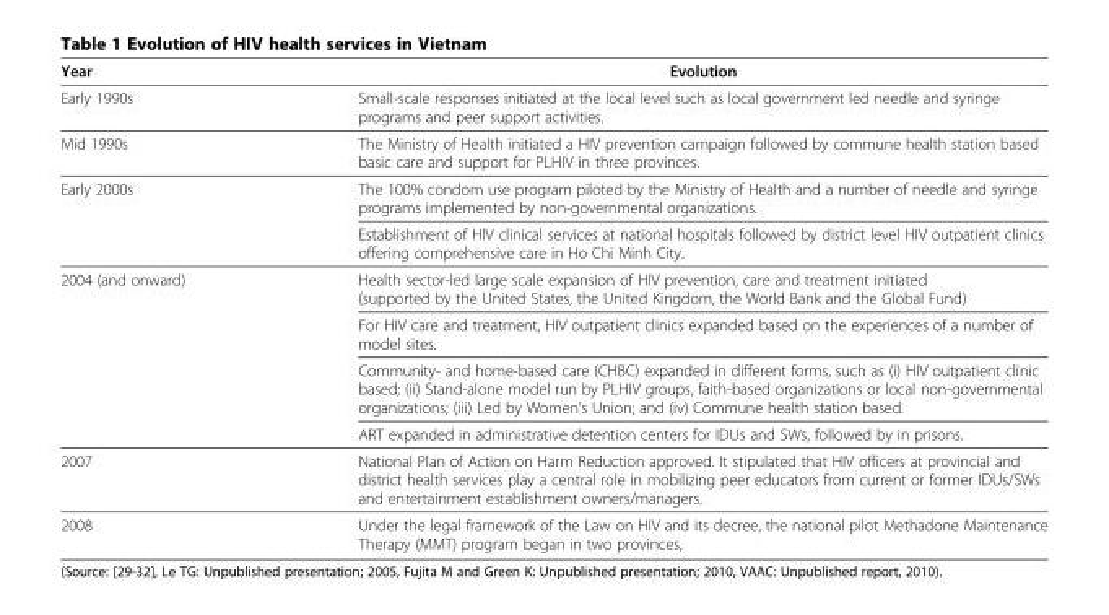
<table><thead><tr><td>Year</td><td>Evolution</td></tr></thead><tbody><tr><td>Early 1990s</td><td>Small-scale responses initiated at the local level such as local government led needle and syringe programs and peer support activities.</td></tr><tr><td>Mid 1990s</td><td>The Ministry of Health initiated a HIV prevention campaign followed by commune health station based basic care and support for PLHIV in three provinces.</td></tr><tr><td rowspan="2">Early 2000s</td><td>The 100% condom use program piloted by the Ministry of Health and a number of needle and syringe programs implemented by non-governmental organizations.</td></tr><tr><td>Establishment of HIV clinical services at national hospitals followed by district level HIV outpatient clinics offering comprehensive care in Ho Chi Minh City.</td></tr><tr><td rowspan="4">2004 (and onward)</td><td>Health sector-led large scale expansion of HIV prevention, care and treatment initiated (supported by the United States, the United Kingdom, the World Bank and the Global Fund)</td></tr><tr><td>For HIV care and treatment, HIV outpatient clinics expanded based on the experiences of a number of model sites.</td></tr><tr><td>Community- and home-based care (CHBC) expanded in different forms, such as (i) HIV outpatient clinic based; (ii) Stand-alone model run by PLHIV groups, faith-based organizations or local non-governmental organizations; (iii) Led by Women’s Union; and (iv) Commune health station based.</td></tr><tr><td>ART expanded in administrative detention centers for IDUs and SWs, followed by in prisons.</td></tr><tr><td>2007</td><td>National Plan of Action on Harm Reduction approved. It stipulated that HIV officers at provincial and district health services play a central role in mobilizing peer educators from current or former IDUs/SWs and entertainment establishment owners/managers.</td></tr><tr><td>2008</td><td>Under the legal framework of the Law on HIV and its decree, the national pilot Methadone Maintenance Therapy (MMT) program began in two provinces,</td></tr></tbody></table>